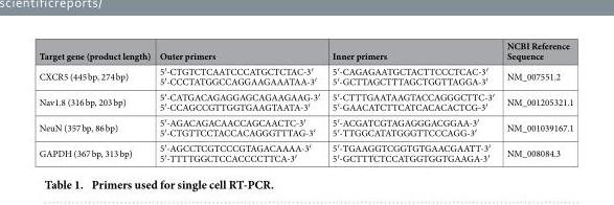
<table><thead><tr><td>Target gene (product length)</td><td>Outer primers</td><td>Inner primers</td><td>NCBI Reference Sequence</td></tr></thead><tbody><tr><td>CXCR5 (445 bp, 274 bp)</td><td>5′ -CTGTCTCAATCCCATGCTCTAC-3′ 5′ -CCCTATGGCCAGGAAGAAATAA-3′</td><td>5′ -CAGAGAATGCTACTTCCCTCAC-3′ 5′ -GCTTAGCTTTAGCTGGTTAGGA-3′</td><td>NM_007551.2</td></tr><tr><td>Nav1.8 (316 bp, 203 bp)</td><td>5′ -CATGACAGAGGAGCAGAAGAAG-3′ 5′ -CCAGCCGTTGGTGAAGTAATA-3′</td><td>5′ -CTTTGAATAAGTACCAGGGCTTC-3′ 5′ -GAACATCTTCATCACACACTCG-3′</td><td>NM_001205321.1</td></tr><tr><td>NeuN (357 bp, 86 bp)</td><td>5′ -AGACAGACAACCAGCAACTC-3′ 5′ -CTGTTCCTACCACAGGGTTTAG-3′</td><td>5′ -ACGATCGTAGAGGGACGGAA-3′ 5′ -TTGGCATATGGGTTCCCAGG-3′</td><td>NM_001039167.1</td></tr><tr><td>GAPDH (367 bp, 313 bp)</td><td>5′ -AGCCTCGTCCCGTAGACAAAA-3′ 5′ -TTTTGGCTCCACCCCTTCA-3′</td><td>5′ -TGAAGGTCGGTGTGAACGAATT-3′ 5′ -GCTTTCTCCATGGTGGTGAAGA-3′</td><td>NM_008084.3</td></tr></tbody></table>